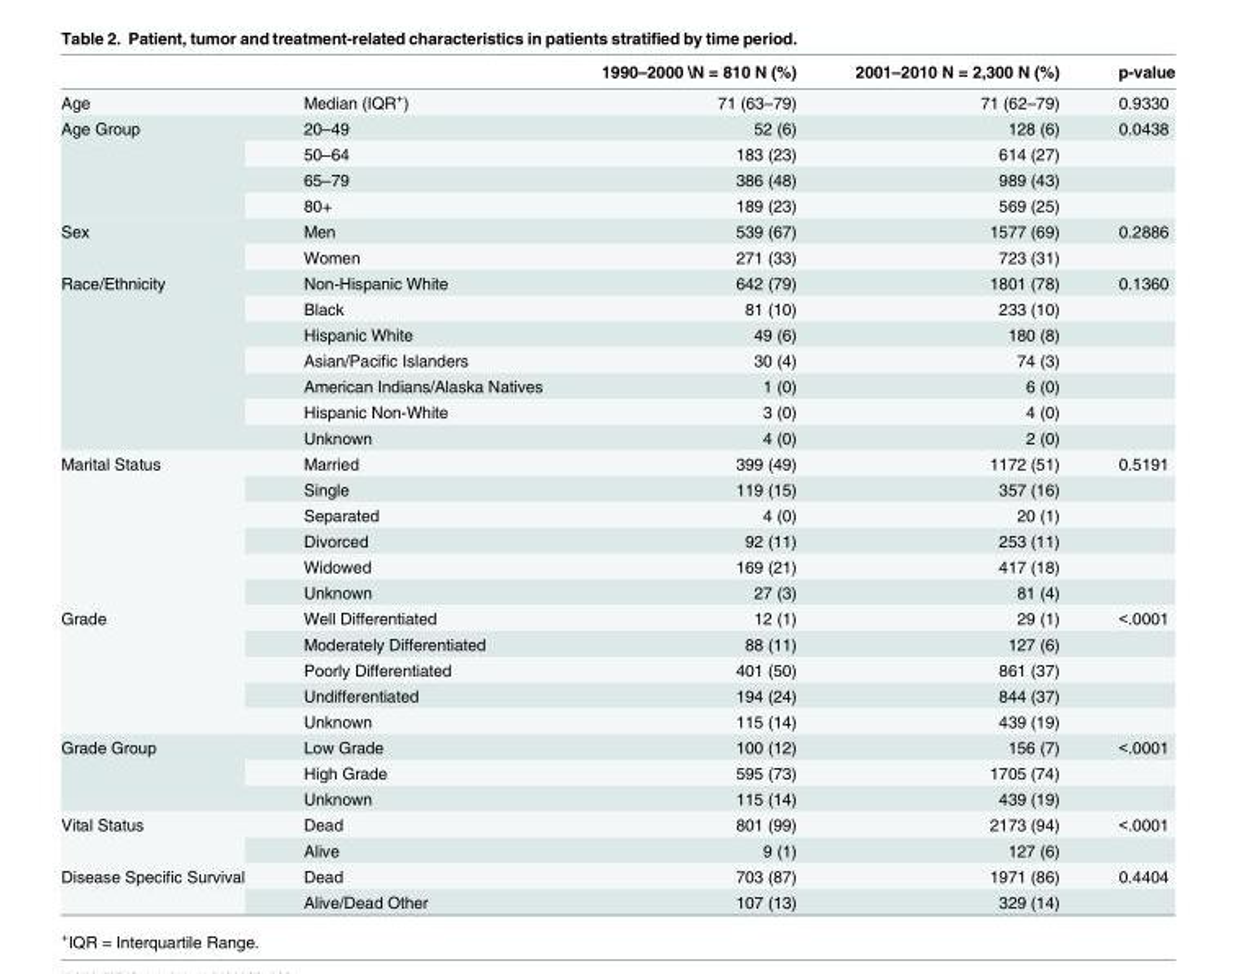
<table><thead><tr><td></td><td></td><td>1990–2000 \N = 810 N (%)</td><td>2001–2010 N = 2,300 N (%)</td><td>p-value</td></tr></thead><tbody><tr><td>Age</td><td>Median (IQR<sup>+</sup>)</td><td>71 (63–79)</td><td>71 (62–79)</td><td>0.9330</td></tr><tr><td rowspan="4">Age Group</td><td>20–49</td><td>52 (6)</td><td>128 (6)</td><td>0.0438</td></tr><tr><td>50–64</td><td>183 (23)</td><td>614 (27)</td><td></td></tr><tr><td>65–79</td><td>386 (48)</td><td>989 (43)</td><td></td></tr><tr><td>80+</td><td>189 (23)</td><td>569 (25)</td><td></td></tr><tr><td rowspan="2">Sex</td><td>Men</td><td>539 (67)</td><td>1577 (69)</td><td>0.2886</td></tr><tr><td>Women</td><td>271 (33)</td><td>723 (31)</td><td></td></tr><tr><td rowspan="7">Race/Ethnicity</td><td>Non-Hispanic White</td><td>642 (79)</td><td>1801 (78)</td><td>0.1360</td></tr><tr><td>Black</td><td>81 (10)</td><td>233 (10)</td><td></td></tr><tr><td>Hispanic White</td><td>49 (6)</td><td>180 (8)</td><td></td></tr><tr><td>Asian/Pacific Islanders</td><td>30 (4)</td><td>74 (3)</td><td></td></tr><tr><td>American Indians/Alaska Natives</td><td>1 (0)</td><td>6 (0)</td><td></td></tr><tr><td>Hispanic Non-White</td><td>3 (0)</td><td>4 (0)</td><td></td></tr><tr><td>Unknown</td><td>4 (0)</td><td>2 (0)</td><td></td></tr><tr><td rowspan="6">Marital Status</td><td>Married</td><td>399 (49)</td><td>1172 (51)</td><td>0.5191</td></tr><tr><td>Single</td><td>119 (15)</td><td>357 (16)</td><td></td></tr><tr><td>Separated</td><td>4 (0)</td><td>20 (1)</td><td></td></tr><tr><td>Divorced</td><td>92 (11)</td><td>253 (11)</td><td></td></tr><tr><td>Widowed</td><td>169 (21)</td><td>417 (18)</td><td></td></tr><tr><td>Unknown</td><td>27 (3)</td><td>81 (4)</td><td></td></tr><tr><td rowspan="5">Grade</td><td>Well Differentiated</td><td>12 (1)</td><td>29 (1)</td><td>&lt;.0001</td></tr><tr><td>Moderately Differentiated</td><td>88 (11)</td><td>127 (6)</td><td></td></tr><tr><td>Poorly Differentiated</td><td>401 (50)</td><td>861 (37)</td><td></td></tr><tr><td>Undifferentiated</td><td>194 (24)</td><td>844 (37)</td><td></td></tr><tr><td>Unknown</td><td>115 (14)</td><td>439 (19)</td><td></td></tr><tr><td rowspan="3">Grade Group</td><td>Low Grade</td><td>100 (12)</td><td>156 (7)</td><td>&lt;.0001</td></tr><tr><td>High Grade</td><td>595 (73)</td><td>1705 (74)</td><td></td></tr><tr><td>Unknown</td><td>115 (14)</td><td>439 (19)</td><td></td></tr><tr><td rowspan="2">Vital Status</td><td>Dead</td><td>801 (99)</td><td>2173 (94)</td><td>&lt;.0001</td></tr><tr><td>Alive</td><td>9 (1)</td><td>127 (6)</td><td></td></tr><tr><td rowspan="2">Disease Specific Survival</td><td>Dead</td><td>703 (87)</td><td>1971 (86)</td><td>0.4404</td></tr><tr><td>Alive/Dead Other</td><td>107 (13)</td><td>329 (14)</td><td></td></tr></tbody></table>